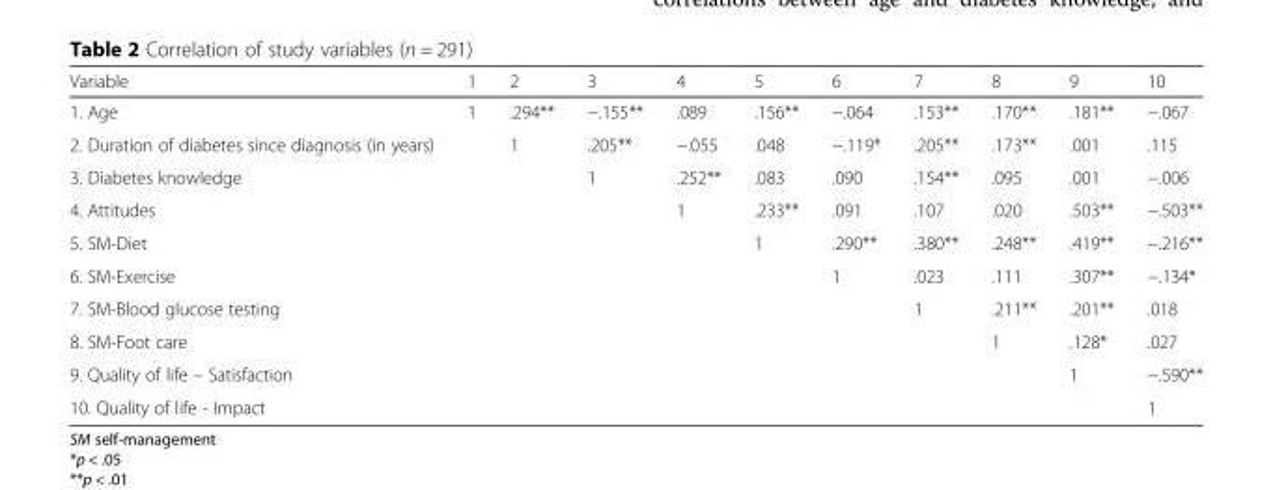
<table><thead><tr><td>Variable</td><td>1</td><td>2</td><td>3</td><td>4</td><td>5</td><td>6</td><td>7</td><td>8</td><td>9</td><td>10</td></tr></thead><tbody><tr><td>1. Age</td><td>1</td><td>.294**</td><td>−.155**</td><td>.089</td><td>.156**</td><td>−.064</td><td>.153**</td><td>.170**</td><td>.181**</td><td>−.067</td></tr><tr><td>2. Duration of diabetes since diagnosis (in years)</td><td></td><td>1</td><td>.205**</td><td>−.055</td><td>.048</td><td>−.119*</td><td>.205**</td><td>.173**</td><td>.001</td><td>.115</td></tr><tr><td>3. Diabetes knowledge</td><td></td><td></td><td>1</td><td>.252**</td><td>.083</td><td>.090</td><td>.154**</td><td>.095</td><td>.001</td><td>−.006</td></tr><tr><td>4. Attitudes</td><td></td><td></td><td></td><td>1</td><td>.233**</td><td>.091</td><td>.107</td><td>.020</td><td>.503**</td><td>−.503**</td></tr><tr><td>5. SM-Diet</td><td></td><td></td><td></td><td></td><td>1</td><td>.290**</td><td>.380**</td><td>.248**</td><td>.419**</td><td>−.216**</td></tr><tr><td>6. SM-Exercise</td><td></td><td></td><td></td><td></td><td></td><td>1</td><td>.023</td><td>.111</td><td>.307**</td><td>−.134*</td></tr><tr><td>7. SM-Blood glucose testing</td><td></td><td></td><td></td><td></td><td></td><td></td><td>1</td><td>.211**</td><td>.201**</td><td>.018</td></tr><tr><td>8. SM-Foot care</td><td></td><td></td><td></td><td></td><td></td><td></td><td></td><td>1</td><td>.128*</td><td>.027</td></tr><tr><td>9. Quality of life – Satisfaction</td><td></td><td></td><td></td><td></td><td></td><td></td><td></td><td></td><td>1</td><td>−.590**</td></tr><tr><td>10. Quality of life - Impact</td><td></td><td></td><td></td><td></td><td></td><td></td><td></td><td></td><td></td><td>1</td></tr></tbody></table>